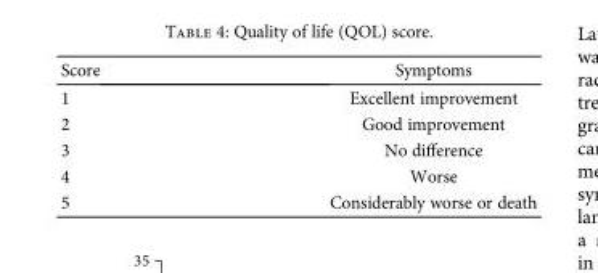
<table><thead><tr><td>Score</td><td>Symptoms</td></tr></thead><tbody><tr><td>1</td><td>Excellent improvement</td></tr><tr><td>2</td><td>Good improvement</td></tr><tr><td>3</td><td>No difference</td></tr><tr><td>4</td><td>Worse</td></tr><tr><td>5</td><td>Considerably worse or death</td></tr></tbody></table>